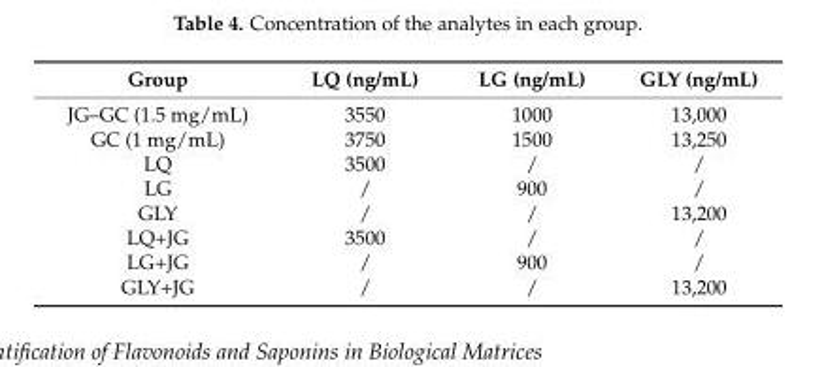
<table><thead><tr><td>Group</td><td>LQ (ng/mL)</td><td>LG (ng/mL)</td><td>GLY (ng/mL)</td></tr></thead><tbody><tr><td>JG–GC (1.5 mg/mL)</td><td>3550</td><td>1000</td><td>13,000</td></tr><tr><td>GC (1 mg/mL)</td><td>3750</td><td>1500</td><td>13,250</td></tr><tr><td>LQ</td><td>3500</td><td>/</td><td>/</td></tr><tr><td>LG</td><td>/</td><td>900</td><td>/</td></tr><tr><td>GLY</td><td>/</td><td>/</td><td>13,200</td></tr><tr><td>LQ+JG</td><td>3500</td><td>/</td><td>/</td></tr><tr><td>LG+JG</td><td>/</td><td>900</td><td>/</td></tr><tr><td>GLY+JG</td><td>/</td><td>/</td><td>13,200</td></tr></tbody></table>